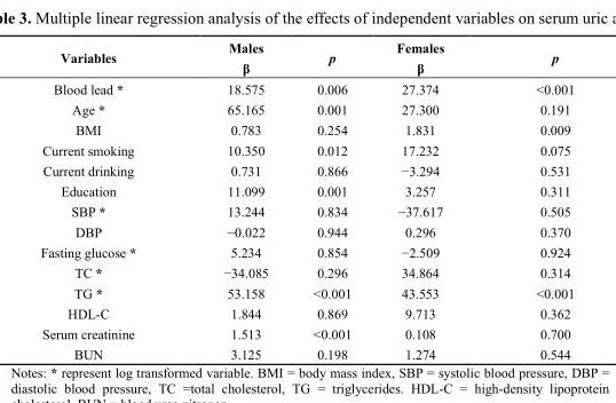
<table><thead><tr><td>Variables</td><td>Males β</td><td>p</td><td>Females β</td><td>p</td></tr></thead><tbody><tr><td>Blood lead *</td><td>18.575</td><td>0.006</td><td>27.374</td><td>&lt;0.001</td></tr><tr><td>Age *</td><td>65.165</td><td>0.001</td><td>27.300</td><td>0.191</td></tr><tr><td>BMI</td><td>0.783</td><td>0.254</td><td>1.831</td><td>0.009</td></tr><tr><td>Current smoking</td><td>10.350</td><td>0.012</td><td>17.232</td><td>0.075</td></tr><tr><td>Current drinking</td><td>0.731</td><td>0.866</td><td>−3.294</td><td>0.531</td></tr><tr><td>Education</td><td>11.099</td><td>0.001</td><td>3.257</td><td>0.311</td></tr><tr><td>SBP *</td><td>13.244</td><td>0.834</td><td>−37.617</td><td>0.505</td></tr><tr><td>DBP</td><td>−0.022</td><td>0.944</td><td>0.296</td><td>0.370</td></tr><tr><td>Fasting glucose *</td><td>5.234</td><td>0.854</td><td>−2.509</td><td>0.924</td></tr><tr><td>TC *</td><td>−34.085</td><td>0.296</td><td>34.864</td><td>0.314</td></tr><tr><td>TG *</td><td>53.158</td><td>&lt;0.001</td><td>43.553</td><td>&lt;0.001</td></tr><tr><td>HDL-C</td><td>1.844</td><td>0.869</td><td>9.713</td><td>0.362</td></tr><tr><td>Serum creatinine</td><td>1.513</td><td>&lt;0.001</td><td>0.108</td><td>0.700</td></tr><tr><td>BUN</td><td>3.125</td><td>0.198</td><td>1.274</td><td>0.544</td></tr></tbody></table>